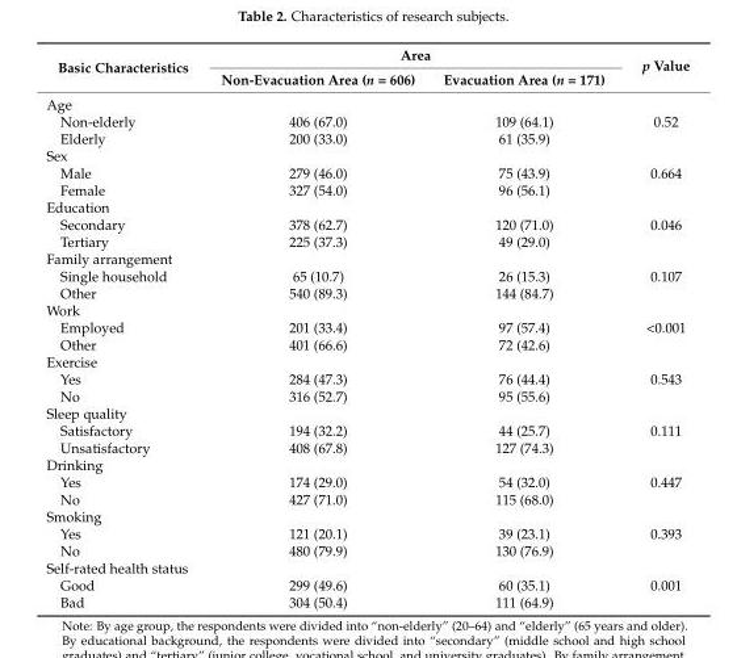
<table><thead><tr><td rowspan="2">Basic Characteristics</td><td colspan="2">Area</td><td rowspan="2">p Value</td></tr><tr><td>Non-Evacuation Area (n = 606)</td><td>Evacuation Area (n = 171)</td></tr></thead><tbody><tr><td colspan="4">Age</td></tr><tr><td>Non-elderly</td><td>406 (67.0)</td><td>109 (64.1)</td><td>0.52</td></tr><tr><td>Elderly</td><td>200 (33.0)</td><td>61 (35.9)</td><td></td></tr><tr><td colspan="4">Sex</td></tr><tr><td>Male</td><td>279 (46.0)</td><td>75 (43.9)</td><td>0.664</td></tr><tr><td>Female</td><td>327 (54.0)</td><td>96 (56.1)</td><td></td></tr><tr><td colspan="4">Education</td></tr><tr><td>Secondary</td><td>378 (62.7)</td><td>120 (71.0)</td><td>0.046</td></tr><tr><td>Tertiary</td><td>225 (37.3)</td><td>49 (29.0)</td><td></td></tr><tr><td colspan="4">Family arrangement</td></tr><tr><td>Single household</td><td>65 (10.7)</td><td>26 (15.3)</td><td>0.107</td></tr><tr><td>Other</td><td>540 (89.3)</td><td>144 (84.7)</td><td></td></tr><tr><td colspan="4">Work</td></tr><tr><td>Employed</td><td>201 (33.4)</td><td>97 (57.4)</td><td>&lt;0.001</td></tr><tr><td>Other</td><td>401 (66.6)</td><td>72 (42.6)</td><td></td></tr><tr><td colspan="4">Exercise</td></tr><tr><td>Yes</td><td>284 (47.3)</td><td>76 (44.4)</td><td>0.543</td></tr><tr><td>No</td><td>316 (52.7)</td><td>95 (55.6)</td><td></td></tr><tr><td colspan="4">Sleep quality</td></tr><tr><td>Satisfactory</td><td>194 (32.2)</td><td>44 (25.7)</td><td>0.111</td></tr><tr><td>Unsatisfactory</td><td>408 (67.8)</td><td>127 (74.3)</td><td></td></tr><tr><td colspan="4">Drinking</td></tr><tr><td>Yes</td><td>174 (29.0)</td><td>54 (32.0)</td><td>0.447</td></tr><tr><td>No</td><td>427 (71.0)</td><td>115 (68.0)</td><td></td></tr><tr><td colspan="4">Smoking</td></tr><tr><td>Yes</td><td>121 (20.1)</td><td>39 (23.1)</td><td>0.393</td></tr><tr><td>No</td><td>480 (79.9)</td><td>130 (76.9)</td><td></td></tr><tr><td colspan="4">Self-rated health status</td></tr><tr><td>Good</td><td>299 (49.6)</td><td>60 (35.1)</td><td>0.001</td></tr><tr><td>Bad</td><td>304 (50.4)</td><td>111 (64.9)</td><td></td></tr></tbody></table>